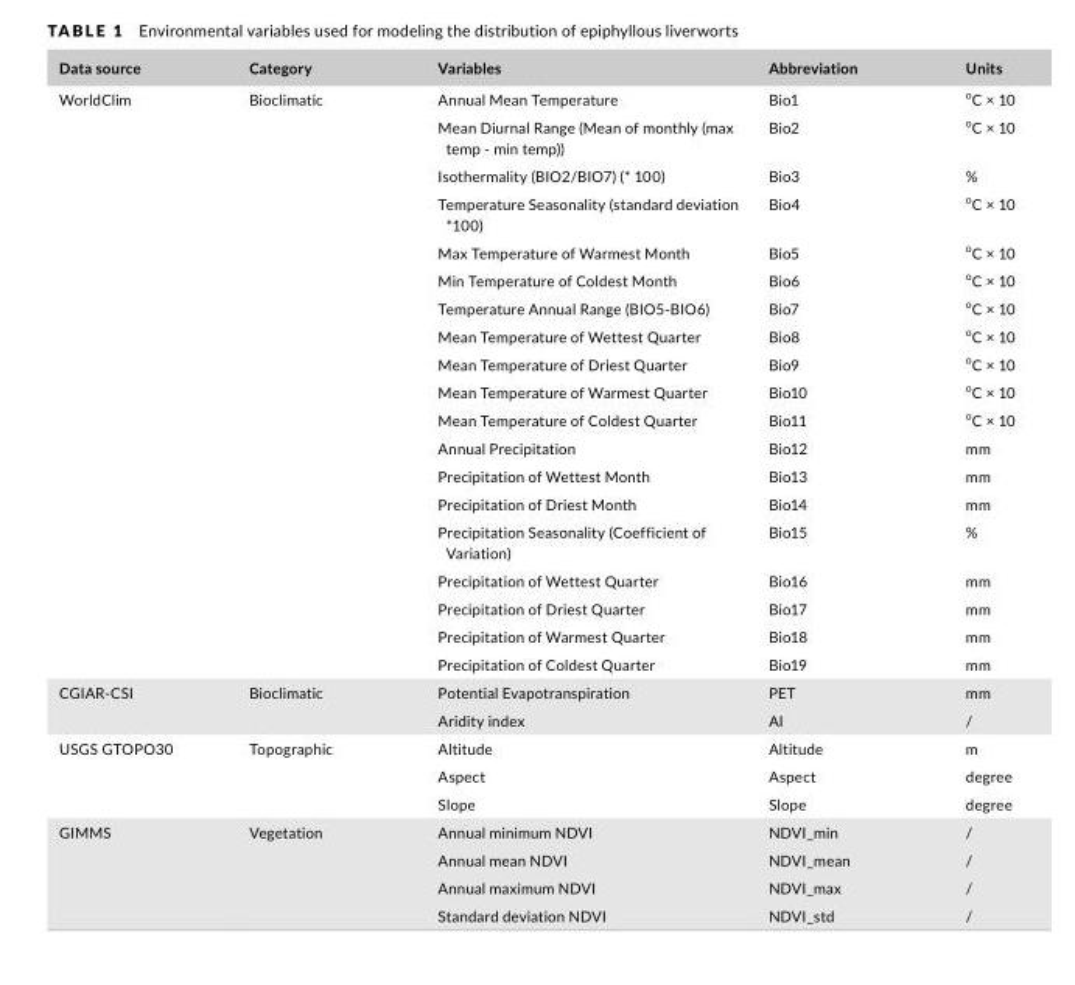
<table><thead><tr><td>Data source</td><td>Category</td><td>Variables</td><td>Abbreviation</td><td>Units</td></tr></thead><tbody><tr><td rowspan="19">WorldClim</td><td rowspan="16">Bioclimatic</td><td>Annual Mean Temperature</td><td>Bio1</td><td><sup>o</sup>C × 10</td></tr><tr><td>Mean Diurnal Range (Mean of monthly (max temp - min temp))</td><td>Bio2</td><td><sup>o</sup>C × 10</td></tr><tr><td>Isothermality (BIO2/BIO7) (* 100)</td><td>Bio3</td><td>%</td></tr><tr><td>Temperature Seasonality (standard deviation *100)</td><td>Bio4</td><td><sup>o</sup>C × 10</td></tr><tr><td>Max Temperature of Warmest Month</td><td>Bio5</td><td><sup>o</sup>C × 10</td></tr><tr><td>Min Temperature of Coldest Month</td><td>Bio6</td><td><sup>o</sup>C × 10</td></tr><tr><td>Temperature Annual Range (BIO5- BIO6)</td><td>Bio7</td><td><sup>o</sup>C × 10</td></tr><tr><td>Mean Temperature of Wettest Quarter</td><td>Bio8</td><td><sup>o</sup>C × 10</td></tr><tr><td>Mean Temperature of Driest Quarter</td><td>Bio9</td><td><sup>o</sup>C × 10</td></tr><tr><td>Mean Temperature of Warmest Quarter</td><td>Bio10</td><td><sup>o</sup>C × 10</td></tr><tr><td>Mean Temperature of Coldest Quarter</td><td>Bio11</td><td><sup>o</sup>C × 10</td></tr><tr><td>Annual Precipitation</td><td>Bio12</td><td>mm</td></tr><tr><td>Precipitation of Wettest Month</td><td>Bio13</td><td>mm</td></tr><tr><td>Precipitation of Driest Month</td><td>Bio14</td><td>mm</td></tr><tr><td>Precipitation Seasonality (Coefficient of Variation)</td><td>Bio15</td><td>%</td></tr><tr><td>Precipitation of Wettest Quarter</td><td>Bio16</td><td>mm</td></tr><tr><td rowspan="2"></td><td>Precipitation of Driest Quarter</td><td>Bio17</td><td>mm</td></tr><tr><td>Precipitation of Warmest Quarter</td><td>Bio18</td><td>mm</td></tr><tr><td></td><td>Precipitation of Coldest Quarter</td><td>Bio19</td><td>mm</td></tr><tr><td rowspan="2">CGIAR- CSI</td><td rowspan="2">Bioclimatic</td><td>Potential Evapotranspiration</td><td>PET</td><td>mm</td></tr><tr><td>Aridity index</td><td>AI</td><td>/</td></tr><tr><td rowspan="3">USGS GTOPO30</td><td rowspan="3">Topographic</td><td>Altitude</td><td>Altitude</td><td>m</td></tr><tr><td>Aspect</td><td>Aspect</td><td>degree</td></tr><tr><td>Slope</td><td>Slope</td><td>degree</td></tr><tr><td rowspan="4">GIMMS</td><td rowspan="4">Vegetation</td><td>Annual minimum NDVI</td><td>NDVI_min</td><td>/</td></tr><tr><td>Annual mean NDVI</td><td>NDVI_mean</td><td>/</td></tr><tr><td>Annual maximum NDVI</td><td>NDVI_max</td><td>/</td></tr><tr><td>Standard deviation NDVI</td><td>NDVI_std</td><td>/</td></tr></tbody></table>